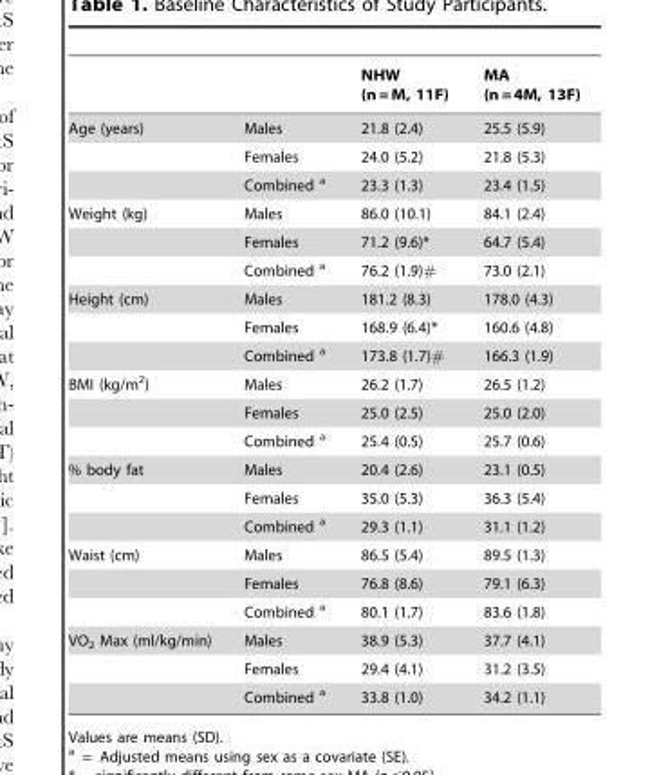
<table><thead><tr><td></td><td></td><td>NHW (n = M, 11F)</td><td>MA (n = 4M, 13F)</td></tr></thead><tbody><tr><td rowspan="3">Age (years)</td><td>Males</td><td>21.8 (2.4)</td><td>25.5 (5.9)</td></tr><tr><td>Females</td><td>24.0 (5.2)</td><td>21.8 (5.3)</td></tr><tr><td>Combined <sup>a</sup></td><td>23.3 (1.3)</td><td>23.4 (1.5)</td></tr><tr><td rowspan="3">Weight (kg)</td><td>Males</td><td>86.0 (10.1)</td><td>84.1 (2.4)</td></tr><tr><td>Females</td><td>71.2 (9.6)*</td><td>64.7 (5.4)</td></tr><tr><td>Combined <sup>a</sup></td><td>76.2 (1.9)#</td><td>73.0 (2.1)</td></tr><tr><td rowspan="3">Height (cm)</td><td>Males</td><td>181.2 (8.3)</td><td>178.0 (4.3)</td></tr><tr><td>Females</td><td>168.9 (6.4)*</td><td>160.6 (4.8)</td></tr><tr><td>Combined <sup>a</sup></td><td>173.8 (1.7)#</td><td>166.3 (1.9)</td></tr><tr><td rowspan="3">BMI (kg/m<sup>2</sup>)</td><td>Males</td><td>26.2 (1.7)</td><td>26.5 (1.2)</td></tr><tr><td>Females</td><td>25.0 (2.5)</td><td>25.0 (2.0)</td></tr><tr><td>Combined <sup>a</sup></td><td>25.4 (0.5)</td><td>25.7 (0.6)</td></tr><tr><td rowspan="3">% body fat</td><td>Males</td><td>20.4 (2.6)</td><td>23.1 (0.5)</td></tr><tr><td>Females</td><td>35.0 (5.3)</td><td>36.3 (5.4)</td></tr><tr><td>Combined <sup>a</sup></td><td>29.3 (1.1)</td><td>31.1 (1.2)</td></tr><tr><td rowspan="3">Waist (cm)</td><td>Males</td><td>86.5 (5.4)</td><td>89.5 (1.3)</td></tr><tr><td>Females</td><td>76.8 (8.6)</td><td>79.1 (6.3)</td></tr><tr><td>Combined <sup>a</sup></td><td>80.1 (1.7)</td><td>83.6 (1.8)</td></tr><tr><td rowspan="3">VO<sub>2</sub> Max (ml/kg/min)</td><td>Males</td><td>38.9 (5.3)</td><td>37.7 (4.1)</td></tr><tr><td>Females</td><td>29.4 (4.1)</td><td>31.2 (3.5)</td></tr><tr><td>Combined a</td><td>33.8 (1.0)</td><td>34.2 (1.1)</td></tr></tbody></table>